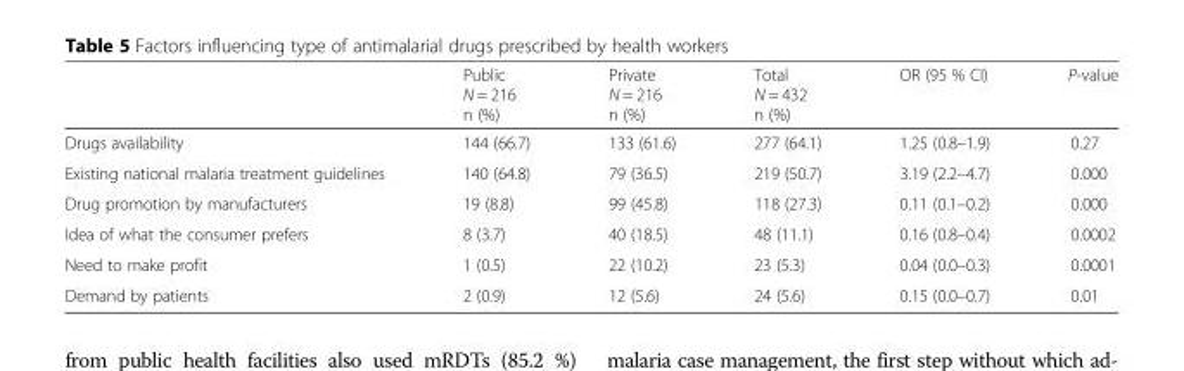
<table><thead><tr><td></td><td>Public N = 216 n (%)</td><td>Private N = 216 n (%)</td><td>Total N = 432 n (%)</td><td>OR (95 % CI)</td><td>P-value</td></tr></thead><tbody><tr><td>Drugs availability</td><td>144 (66.7)</td><td>133 (61.6)</td><td>277 (64.1)</td><td>1.25 (0.8–1.9)</td><td>0.27</td></tr><tr><td>Existing national malaria treatment guidelines</td><td>140 (64.8)</td><td>79 (36.5)</td><td>219 (50.7)</td><td>3.19 (2.2–4.7)</td><td>0.000</td></tr><tr><td>Drug promotion by manufacturers</td><td>19 (8.8)</td><td>99 (45.8)</td><td>118 (27.3)</td><td>0.11 (0.1–0.2)</td><td>0.000</td></tr><tr><td>Idea of what the consumer prefers</td><td>8 (3.7)</td><td>40 (18.5)</td><td>48 (11.1)</td><td>0.16 (0.8–0.4)</td><td>0.0002</td></tr><tr><td>Need to make profit</td><td>1 (0.5)</td><td>22 (10.2)</td><td>23 (5.3)</td><td>0.04 (0.0–0.3)</td><td>0.0001</td></tr><tr><td>Demand by patients</td><td>2 (0.9)</td><td>12 (5.6)</td><td>24 (5.6)</td><td>0.15 (0.0–0.7)</td><td>0.01</td></tr></tbody></table>